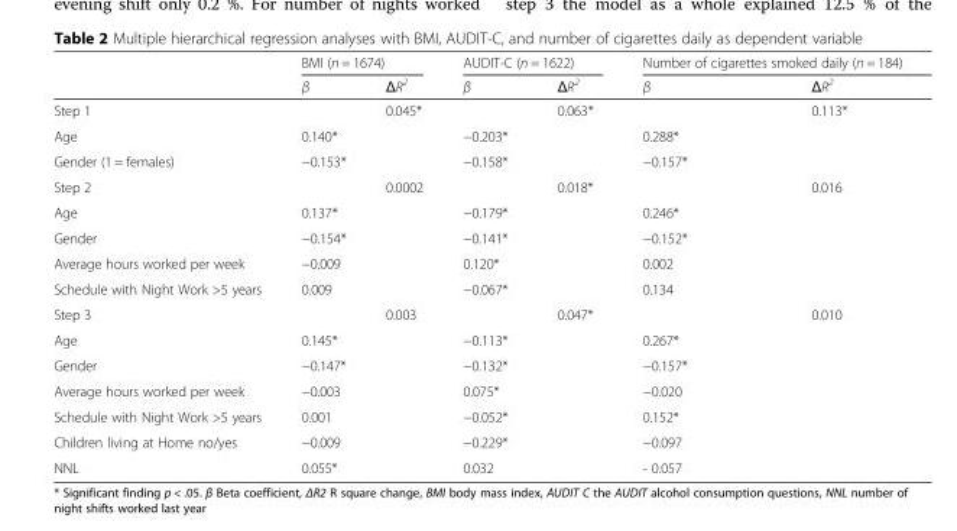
<table><thead><tr><td rowspan="2"></td><td colspan="2">BMI (n = 1674)</td><td colspan="2">AUDIT-C (n = 1622)</td><td colspan="2">Number of cigarettes smoked daily (n = 184)</td></tr><tr><td>β</td><td>ΔR<sup>2</sup></td><td>β</td><td>ΔR<sup>2</sup></td><td>β</td><td>ΔR<sup>2</sup></td></tr></thead><tbody><tr><td>Step 1</td><td></td><td>0.045*</td><td></td><td>0.063*</td><td></td><td>0.113*</td></tr><tr><td>Age</td><td>0.140*</td><td></td><td>−0.203*</td><td></td><td>0.288*</td><td></td></tr><tr><td>Gender (1 = females)</td><td>−0.153*</td><td></td><td>−0.158*</td><td></td><td>−0.157*</td><td></td></tr><tr><td>Step 2</td><td></td><td>0.0002</td><td></td><td>0.018*</td><td></td><td>0.016</td></tr><tr><td>Age</td><td>0.137*</td><td></td><td>−0.179*</td><td></td><td>0.246*</td><td></td></tr><tr><td>Gender</td><td>−0.154*</td><td></td><td>−0.141*</td><td></td><td>−0.152*</td><td></td></tr><tr><td>Average hours worked per week</td><td>−0.009</td><td></td><td>0.120*</td><td></td><td>0.002</td><td></td></tr><tr><td>Schedule with Night Work &gt;5 years</td><td>0.009</td><td></td><td>−0.067*</td><td></td><td>0.134</td><td></td></tr><tr><td>Step 3</td><td></td><td>0.003</td><td></td><td>0.047*</td><td></td><td>0.010</td></tr><tr><td>Age</td><td>0.145*</td><td></td><td>−0.113*</td><td></td><td>0.267*</td><td></td></tr><tr><td>Gender</td><td>−0.147*</td><td></td><td>−0.132*</td><td></td><td>−0.157*</td><td></td></tr><tr><td>Average hours worked per week</td><td>−0.003</td><td></td><td>0.075*</td><td></td><td>−0.020</td><td></td></tr><tr><td>Schedule with Night Work &gt;5 years</td><td>0.001</td><td></td><td>−0.052*</td><td></td><td>0.152*</td><td></td></tr><tr><td>Children living at Home no/yes</td><td>−0.009</td><td></td><td>−0.229*</td><td></td><td>−0.097</td><td></td></tr><tr><td>NNL</td><td>0.055*</td><td></td><td>0.032</td><td></td><td>- 0.057</td><td></td></tr></tbody></table>